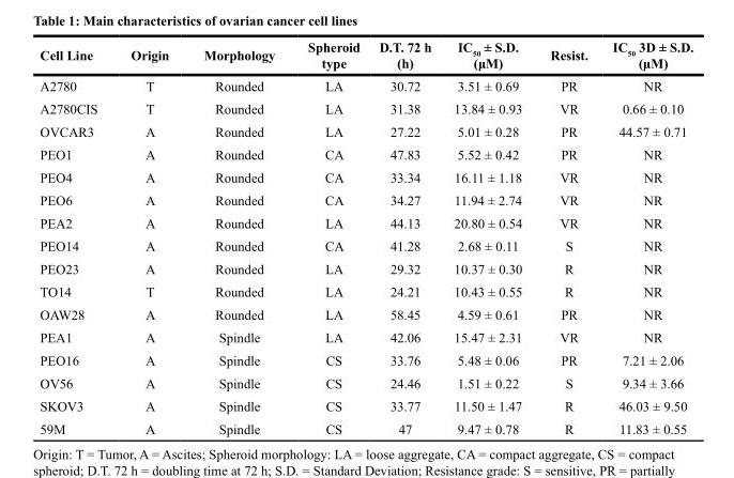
<table><thead><tr><td>Cell Line</td><td>Origin</td><td>Morphology</td><td>Spheroid type</td><td>D.T. 72 h (h)</td><td>IC<sub>50</sub> ± S.D. (μM)</td><td>Resist.</td><td>IC<sub>50</sub> 3D ± S.D. (μM)</td></tr></thead><tbody><tr><td>A2780</td><td>T</td><td>Rounded</td><td>LA</td><td>30.72</td><td>3.51 ± 0.69</td><td>PR</td><td>NR</td></tr><tr><td>A2780CIS</td><td>T</td><td>Rounded</td><td>LA</td><td>31.38</td><td>13.84 ± 0.93</td><td>VR</td><td>0.66 ± 0.10</td></tr><tr><td>OVCAR3</td><td>A</td><td>Rounded</td><td>LA</td><td>27.22</td><td>5.01 ± 0.28</td><td>PR</td><td>44.57 ± 0.71</td></tr><tr><td>PEO1</td><td>A</td><td>Rounded</td><td>CA</td><td>47.83</td><td>5.52 ± 0.42</td><td>PR</td><td>NR</td></tr><tr><td>PEO4</td><td>A</td><td>Rounded</td><td>CA</td><td>33.34</td><td>16.11 ± 1.18</td><td>VR</td><td>NR</td></tr><tr><td>PEO6</td><td>A</td><td>Rounded</td><td>CA</td><td>34.27</td><td>11.94 ± 2.74</td><td>VR</td><td>NR</td></tr><tr><td>PEA2</td><td>A</td><td>Rounded</td><td>LA</td><td>44.13</td><td>20.80 ± 0.54</td><td>VR</td><td>NR</td></tr><tr><td>PEO14</td><td>A</td><td>Rounded</td><td>CA</td><td>41.28</td><td>2.68 ± 0.11</td><td>S</td><td>NR</td></tr><tr><td>PEO23</td><td>A</td><td>Rounded</td><td>LA</td><td>29.32</td><td>10.37 ± 0.30</td><td>R</td><td>NR</td></tr><tr><td>TO14</td><td>T</td><td>Rounded</td><td>LA</td><td>24.21</td><td>10.43 ± 0.55</td><td>R</td><td>NR</td></tr><tr><td>OAW28</td><td>A</td><td>Rounded</td><td>LA</td><td>58.45</td><td>4.59 ± 0.61</td><td>PR</td><td>NR</td></tr><tr><td>PEA1</td><td>A</td><td>Spindle</td><td>LA</td><td>42.06</td><td>15.47 ± 2.31</td><td>VR</td><td>NR</td></tr><tr><td>PEO16</td><td>A</td><td>Spindle</td><td>CS</td><td>33.76</td><td>5.48 ± 0.06</td><td>PR</td><td>7.21 ± 2.06</td></tr><tr><td>OV56</td><td>A</td><td>Spindle</td><td>CS</td><td>24.46</td><td>1.51 ± 0.22</td><td>S</td><td>9.34 ± 3.66</td></tr><tr><td>SKOV3</td><td>A</td><td>Spindle</td><td>CS</td><td>33.77</td><td>11.50 ± 1.47</td><td>R</td><td>46.03 ± 9.50</td></tr><tr><td>59M</td><td>A</td><td>Spindle</td><td>CS</td><td>47</td><td>9.47 ± 0.78</td><td>R</td><td>11.83 ± 0.55</td></tr></tbody></table>